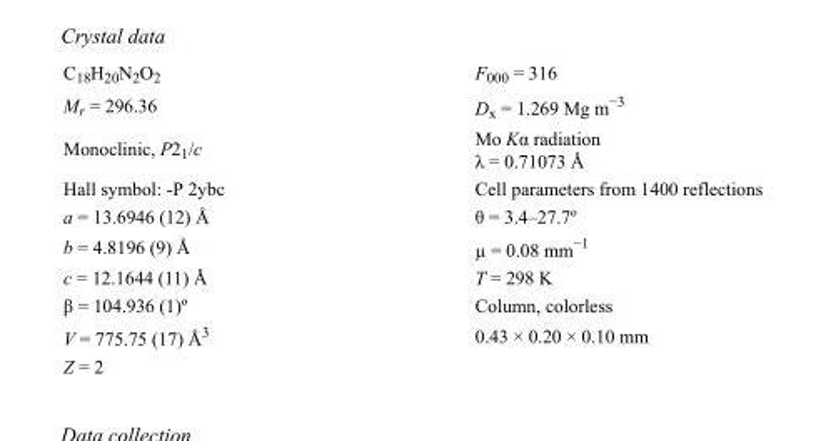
<table><tbody><tr><td>C<sub>18</sub>H<sub>20</sub>N<sub>2</sub>O<sub>2</sub></td><td>F000 = 316</td></tr><tr><td>M<sub>r</sub> = 296.36</td><td>D<sub>x</sub> = 1.269 Mg m<sup>−3</sup></td></tr><tr><td>Monoclinic, P2<sub>1</sub>/c</td><td>Mo Kα radiation λ = 0.71073 Å</td></tr><tr><td>Hall symbol: -P 2ybc</td><td>Cell parameters from 1400 reflections</td></tr><tr><td>a = 13.6946 (12) Å</td><td>θ = 3.4–27.7º</td></tr><tr><td>b = 4.8196 (9) Å</td><td>µ = 0.08 mm<sup>−1</sup></td></tr><tr><td>c = 12.1644 (11) Å</td><td>T = 298 K</td></tr><tr><td>β = 104.936 (1)º</td><td>Column, colorless</td></tr><tr><td>V = 775.75 (17) Å<sup>3</sup></td><td>0.43 × 0.20 × 0.10 mm</td></tr><tr><td>Z = 2</td><td></td></tr></tbody></table>